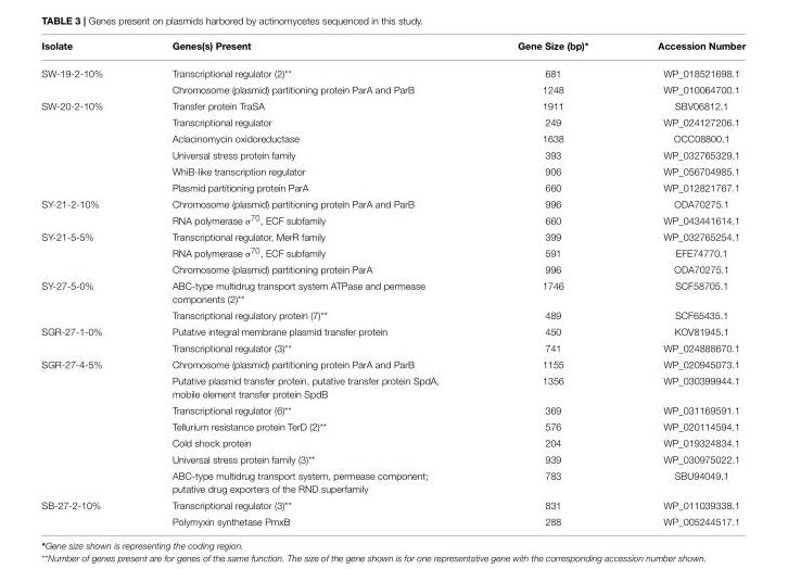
<table><thead><tr><td>Isolate</td><td>Genes(s) Present</td><td>Gene Size (bp)*</td><td>Accession Number</td></tr></thead><tbody><tr><td rowspan="2">SW-19-2-10%</td><td>Transcriptional regulator (2)**</td><td>681</td><td>WP_018521698.1</td></tr><tr><td>Chromosome (plasmid) partitioning protein ParA and ParB</td><td>1248</td><td>WP_010064700.1</td></tr><tr><td rowspan="6">SW-20-2-10%</td><td>Transfer protein TraSA</td><td>1911</td><td>SBV06812.1</td></tr><tr><td>Transcriptional regulator</td><td>249</td><td>WP_024127206.1</td></tr><tr><td>Aclacinomycin oxidoreductase</td><td>1638</td><td>OCC08800.1</td></tr><tr><td>Universal stress protein family</td><td>393</td><td>WP_032765329.1</td></tr><tr><td>WhiB-like transcription regulator</td><td>906</td><td>WP_056704985.1</td></tr><tr><td>Plasmid partitioning protein ParA</td><td>660</td><td>WP_012821767.1</td></tr><tr><td rowspan="2">SY-21-2-10%</td><td>Chromosome (plasmid) partitioning protein ParA and ParB</td><td>996</td><td>ODA70275.1</td></tr><tr><td>RNA polymerase σ<sup>70</sup>, ECF subfamily</td><td>660</td><td>WP_043441614.1</td></tr><tr><td rowspan="3">SY-21-5-5%</td><td>Transcriptional regulator, MerR family</td><td>399</td><td>WP_032765254.1</td></tr><tr><td>RNA polymerase σ<sup>70</sup>, ECF subfamily</td><td>591</td><td>EFE74770.1</td></tr><tr><td>Chromosome (plasmid) partitioning protein ParA</td><td>996</td><td>ODA70275.1</td></tr><tr><td rowspan="2">SY-27-5-0%</td><td>ABC-type multidrug transport system ATPase and permease components (2)**</td><td>1746</td><td>SCF58705.1</td></tr><tr><td>Transcriptional regulatory protein (7)**</td><td>489</td><td>SCF65435.1</td></tr><tr><td rowspan="2">SGR-27-1-0%</td><td>Putative integral membrane plasmid transfer protein</td><td>450</td><td>KOV81945.1</td></tr><tr><td>Transcriptional regulator (3)**</td><td>741</td><td>WP_024888670.1</td></tr><tr><td rowspan="7">SGR-27-4-5%</td><td>Chromosome (plasmid) partitioning protein ParA and ParB</td><td>1155</td><td>WP_020945073.1</td></tr><tr><td>Putative plasmid transfer protein, putative transfer protein SpdA, mobile element transfer protein SpdB</td><td>1356</td><td>WP_030399944.1</td></tr><tr><td>Transcriptional regulator (6)**</td><td>369</td><td>WP_031169591.1</td></tr><tr><td>Tellurium resistance protein TerD (2)**</td><td>576</td><td>WP_020114594.1</td></tr><tr><td>Cold shock protein</td><td>204</td><td>WP_019324834.1</td></tr><tr><td>Universal stress protein family (3)**</td><td>939</td><td>WP_030975022.1</td></tr><tr><td>ABC-type multidrug transport system, permease component; putative drug exporters of the RND superfamily</td><td>783</td><td>SBU94049.1</td></tr><tr><td rowspan="2">SB-27-2-10%</td><td>Transcriptional regulator (3)**</td><td>831</td><td>WP_011039338.1</td></tr><tr><td>Polymyxin synthetase PmxB</td><td>288</td><td>WP_005244517.1</td></tr></tbody></table>